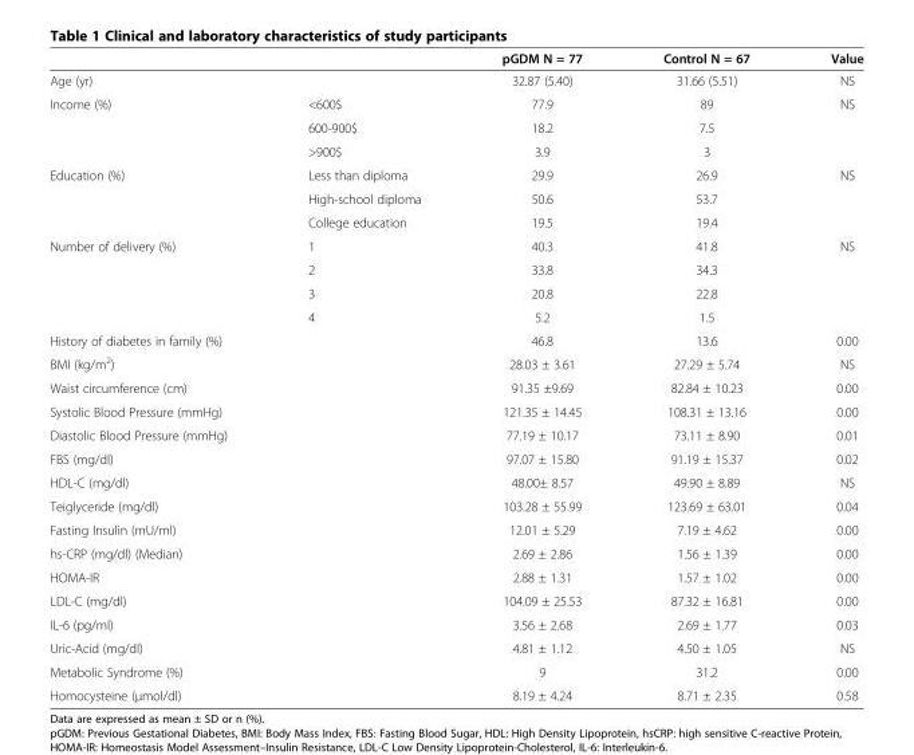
<table><thead><tr><td></td><td></td><td>pGDM N = 77</td><td>Control N = 67</td><td>Value</td></tr></thead><tbody><tr><td>Age (yr)</td><td></td><td>32.87 (5.40)</td><td>31.66 (5.51)</td><td>NS</td></tr><tr><td rowspan="3">Income (%)</td><td>&lt;600$</td><td>77.9</td><td>89</td><td rowspan="3">NS</td></tr><tr><td>600-900$</td><td>18.2</td><td>7.5</td></tr><tr><td>&gt;900$</td><td>3.9</td><td>3</td></tr><tr><td rowspan="3">Education (%)</td><td>Less than diploma</td><td>29.9</td><td>26.9</td><td rowspan="3">NS</td></tr><tr><td>High-school diploma</td><td>50.6</td><td>53.7</td></tr><tr><td>College education</td><td>19.5</td><td>19.4</td></tr><tr><td rowspan="4">Number of delivery (%)</td><td>1</td><td>40.3</td><td>41.8</td><td rowspan="4">NS</td></tr><tr><td>2</td><td>33.8</td><td>34.3</td></tr><tr><td>3</td><td>20.8</td><td>22.8</td></tr><tr><td>4</td><td>5.2</td><td>1.5</td></tr><tr><td>History of diabetes in family (%)</td><td></td><td>46.8</td><td>13.6</td><td>0.00</td></tr><tr><td>BMI (kg/m<sup>2</sup>)</td><td></td><td>28.03 ± 3.61</td><td>27.29 ± 5.74</td><td>NS</td></tr><tr><td>Waist circumference (cm)</td><td></td><td>91.35 ±9.69</td><td>82.84 ± 10.23</td><td>0.00</td></tr><tr><td>Systolic Blood Pressure (mmHg)</td><td></td><td>121.35 ± 14.45</td><td>108.31 ± 13.16</td><td>0.00</td></tr><tr><td>Diastolic Blood Pressure (mmHg)</td><td></td><td>77.19 ± 10.17</td><td>73.11 ± 8.90</td><td>0.01</td></tr><tr><td>FBS (mg/dl)</td><td></td><td>97.07 ± 15.80</td><td>91.19 ± 15.37</td><td>0.02</td></tr><tr><td>HDL-C (mg/dl)</td><td></td><td>48.00± 8.57</td><td>49.90 ± 8.89</td><td>NS</td></tr><tr><td>Teiglyceride (mg/dl)</td><td></td><td>103.28 ± 55.99</td><td>123.69 ± 63.01</td><td>0.04</td></tr><tr><td>Fasting Insulin (mU/ml)</td><td></td><td>12.01 ± 5.29</td><td>7.19 ± 4.62</td><td>0.00</td></tr><tr><td>hs-CRP (mg/dl) (Median)</td><td></td><td>2.69 ± 2.86</td><td>1.56 ± 1.39</td><td>0.00</td></tr><tr><td>HOMA-IR</td><td></td><td>2.88 ± 1.31</td><td>1.57 ± 1.02</td><td>0.00</td></tr><tr><td>LDL-C (mg/dl)</td><td></td><td>104.09 ± 25.53</td><td>87.32 ± 16.81</td><td>0.00</td></tr><tr><td>IL-6 (pg/ml)</td><td></td><td>3.56 ± 2.68</td><td>2.69 ± 1.77</td><td>0.03</td></tr><tr><td>Uric-Acid (mg/dl)</td><td></td><td>4.81 ± 1.12</td><td>4.50 ± 1.05</td><td>NS</td></tr><tr><td>Metabolic Syndrome (%)</td><td></td><td>9</td><td>31.2</td><td>0.00</td></tr><tr><td>Homocysteine (μmol/dl)</td><td></td><td>8.19 ± 4.24</td><td>8.71 ± 2.35</td><td>0.58</td></tr></tbody></table>